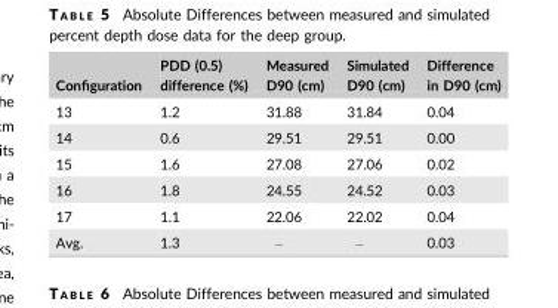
<table><thead><tr><td>Configuration</td><td>PDD (0.5) difference (%)</td><td>Measured D90 (cm)</td><td>Simulated D90 (cm)</td><td>Difference in D90 (cm)</td></tr></thead><tbody><tr><td>13</td><td>1.2</td><td>31.88</td><td>31.84</td><td>0.04</td></tr><tr><td>14</td><td>0.6</td><td>29.51</td><td>29.51</td><td>0.00</td></tr><tr><td>15</td><td>1.6</td><td>27.08</td><td>27.06</td><td>0.02</td></tr><tr><td>16</td><td>1.8</td><td>24.55</td><td>24.52</td><td>0.03</td></tr><tr><td>17</td><td>1.1</td><td>22.06</td><td>22.02</td><td>0.04</td></tr><tr><td>Avg.</td><td>1.3</td><td>–</td><td>–</td><td>0.03</td></tr></tbody></table>